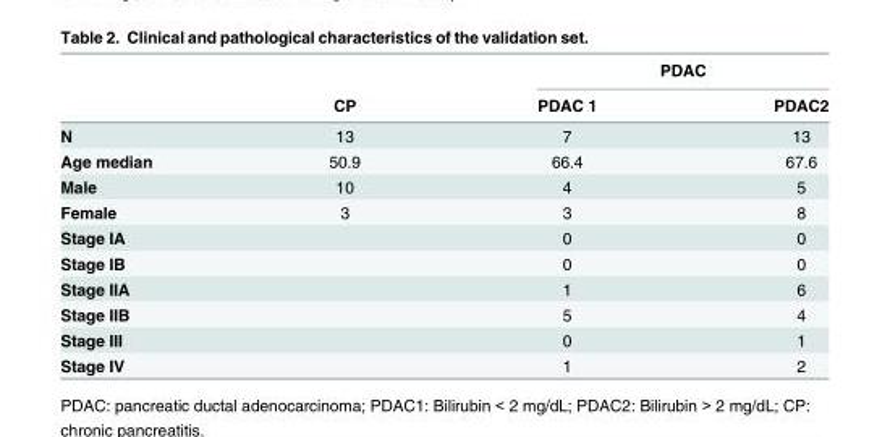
<table><thead><tr><td rowspan="2"></td><td rowspan="2">CP</td><td colspan="2">PDAC</td></tr><tr><td>PDAC 1</td><td>PDAC2</td></tr></thead><tbody><tr><td>N</td><td>13</td><td>7</td><td>13</td></tr><tr><td>Age median</td><td>50.9</td><td>66.4</td><td>67.6</td></tr><tr><td>Male</td><td>10</td><td>4</td><td>5</td></tr><tr><td>Female</td><td>3</td><td>3</td><td>8</td></tr><tr><td>Stage IA</td><td></td><td>0</td><td>0</td></tr><tr><td>Stage IB</td><td></td><td>0</td><td>0</td></tr><tr><td>Stage IIA</td><td></td><td>1</td><td>6</td></tr><tr><td>Stage IIB</td><td></td><td>5</td><td>4</td></tr><tr><td>Stage III</td><td></td><td>0</td><td>1</td></tr><tr><td>Stage IV</td><td></td><td>1</td><td>2</td></tr></tbody></table>